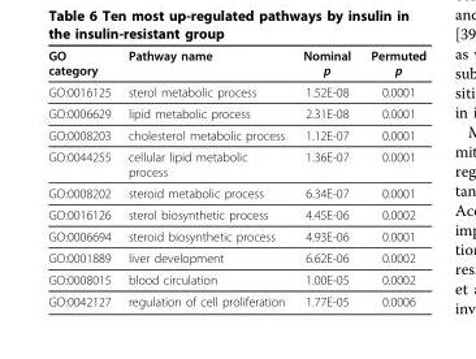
<table><thead><tr><td>GO category</td><td>Pathway name</td><td>Nominal p</td><td>Permuted p</td></tr></thead><tbody><tr><td>GO:0016125</td><td>sterol metabolic process</td><td>1.52E-08</td><td>0.0001</td></tr><tr><td>GO:0006629</td><td>lipid metabolic process</td><td>2.31E-08</td><td>0.0001</td></tr><tr><td>GO:0008203</td><td>cholesterol metabolic process</td><td>1.12E-07</td><td>0.0001</td></tr><tr><td>GO:0044255</td><td>cellular lipid metabolic process</td><td>1.36E-07</td><td>0.0001</td></tr><tr><td>GO:0008202</td><td>steroid metabolic process</td><td>6.34E-07</td><td>0.0001</td></tr><tr><td>GO:0016126</td><td>sterol biosynthetic process</td><td>4.45E-06</td><td>0.0002</td></tr><tr><td>GO:0006694</td><td>steroid biosynthetic process</td><td>4.93E-06</td><td>0.0001</td></tr><tr><td>GO:0001889</td><td>liver development</td><td>6.62E-06</td><td>0.0002</td></tr><tr><td>GO:0008015</td><td>blood circulation</td><td>1.00E-05</td><td>0.0002</td></tr><tr><td>GO:0042127</td><td>regulation of cell proliferation</td><td>1.77E-05</td><td>0.0006</td></tr></tbody></table>